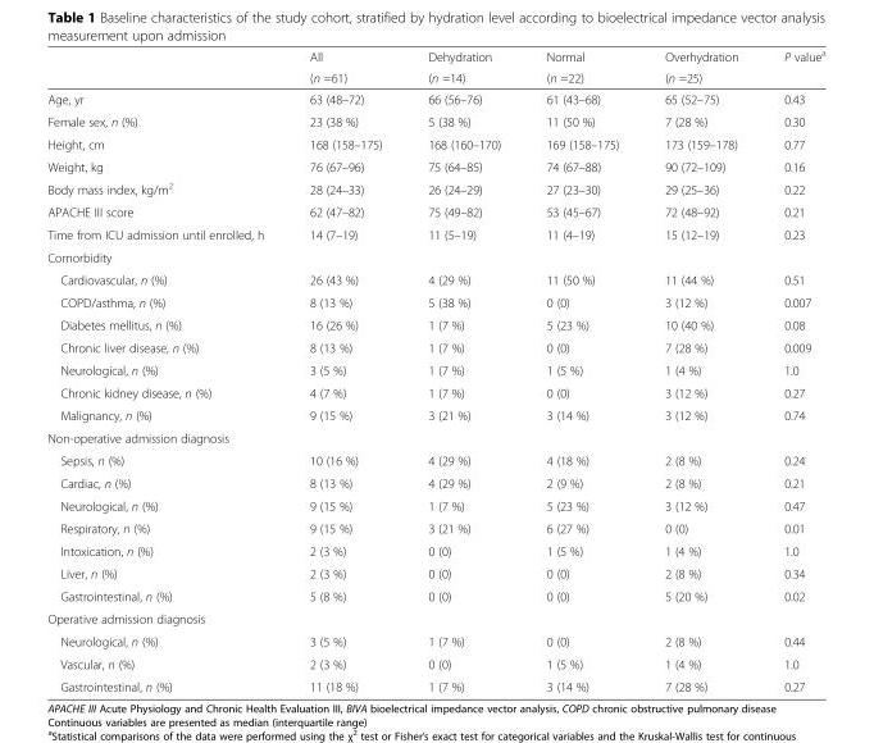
<table><thead><tr><td rowspan="2"></td><td rowspan="2">All (n =61)</td><td rowspan="2">Dehydration (n =14)</td><td rowspan="2">Normal (n =22)</td><td rowspan="2">Overhydration (n =25)</td><td rowspan="2">P value<sup>a</sup></td></tr><tr></tr></thead><tbody><tr><td>Age, yr</td><td>63 (48–72)</td><td>66 (56–76)</td><td>61 (43–68)</td><td>65 (52–75)</td><td>0.43</td></tr><tr><td>Female sex, n (%)</td><td>23 (38 %)</td><td>5 (38 %)</td><td>11 (50 %)</td><td>7 (28 %)</td><td>0.30</td></tr><tr><td>Height, cm</td><td>168 (158–175)</td><td>168 (160–170)</td><td>169 (158–175)</td><td>173 (159–178)</td><td>0.77</td></tr><tr><td>Weight, kg</td><td>76 (67–96)</td><td>75 (64–85)</td><td>74 (67–88)</td><td>90 (72–109)</td><td>0.16</td></tr><tr><td>Body mass index, kg/m<sup>2</sup></td><td>28 (24–33)</td><td>26 (24–29)</td><td>27 (23–30)</td><td>29 (25–36)</td><td>0.22</td></tr><tr><td>APACHE III score</td><td>62 (47–82)</td><td>75 (49–82)</td><td>53 (45–67)</td><td>72 (48–92)</td><td>0.21</td></tr><tr><td>Time from ICU admission until enrolled, h</td><td>14 (7–19)</td><td>11 (5–19)</td><td>11 (4–19)</td><td>15 (12–19)</td><td>0.23</td></tr><tr><td colspan="6">Comorbidity</td></tr><tr><td>Cardiovascular, n (%)</td><td>26 (43 %)</td><td>4 (29 %)</td><td>11 (50 %)</td><td>11 (44 %)</td><td>0.51</td></tr><tr><td>COPD/asthma, n (%)</td><td>8 (13 %)</td><td>5 (38 %)</td><td>0 (0)</td><td>3 (12 %)</td><td>0.007</td></tr><tr><td>Diabetes mellitus, n (%)</td><td>16 (26 %)</td><td>1 (7 %)</td><td>5 (23 %)</td><td>10 (40 %)</td><td>0.08</td></tr><tr><td>Chronic liver disease, n (%)</td><td>8 (13 %)</td><td>1 (7 %)</td><td>0 (0)</td><td>7 (28 %)</td><td>0.009</td></tr><tr><td>Neurological, n (%)</td><td>3 (5 %)</td><td>1 (7 %)</td><td>1 (5 %)</td><td>1 (4 %)</td><td>1.0</td></tr><tr><td>Chronic kidney disease, n (%)</td><td>4 (7 %)</td><td>1 (7 %)</td><td>0 (0)</td><td>3 (12 %)</td><td>0.27</td></tr><tr><td>Malignancy, n (%)</td><td>9 (15 %)</td><td>3 (21 %)</td><td>3 (14 %)</td><td>3 (12 %)</td><td>0.74</td></tr><tr><td colspan="6">Non-operative admission diagnosis</td></tr><tr><td>Sepsis, n (%)</td><td>10 (16 %)</td><td>4 (29 %)</td><td>4 (18 %)</td><td>2 (8 %)</td><td>0.24</td></tr><tr><td>Cardiac, n (%)</td><td>8 (13 %)</td><td>4 (29 %)</td><td>2 (9 %)</td><td>2 (8 %)</td><td>0.21</td></tr><tr><td>Neurological, n (%)</td><td>9 (15 %)</td><td>1 (7 %)</td><td>5 (23 %)</td><td>3 (12 %)</td><td>0.47</td></tr><tr><td>Respiratory, n (%)</td><td>9 (15 %)</td><td>3 (21 %)</td><td>6 (27 %)</td><td>0 (0)</td><td>0.01</td></tr><tr><td>Intoxication, n (%)</td><td>2 (3 %)</td><td>0 (0)</td><td>1 (5 %)</td><td>1 (4 %)</td><td>1.0</td></tr><tr><td>Liver, n (%)</td><td>2 (3 %)</td><td>0 (0)</td><td>0 (0)</td><td>2 (8 %)</td><td>0.34</td></tr><tr><td>Gastrointestinal, n (%)</td><td>5 (8 %)</td><td>0 (0)</td><td>0 (0)</td><td>5 (20 %)</td><td>0.02</td></tr><tr><td colspan="6">Operative admission diagnosis</td></tr><tr><td>Neurological, n (%)</td><td>3 (5 %)</td><td>1 (7 %)</td><td>0 (0)</td><td>2 (8 %)</td><td>0.44</td></tr><tr><td>Vascular, n (%)</td><td>2 (3 %)</td><td>0 (0)</td><td>1 (5 %)</td><td>1 (4 %)</td><td>1.0</td></tr><tr><td>Gastrointestinal, n (%)</td><td>11 (18 %)</td><td>1 (7 %)</td><td>3 (14 %)</td><td>7 (28 %)</td><td>0.27</td></tr></tbody></table>